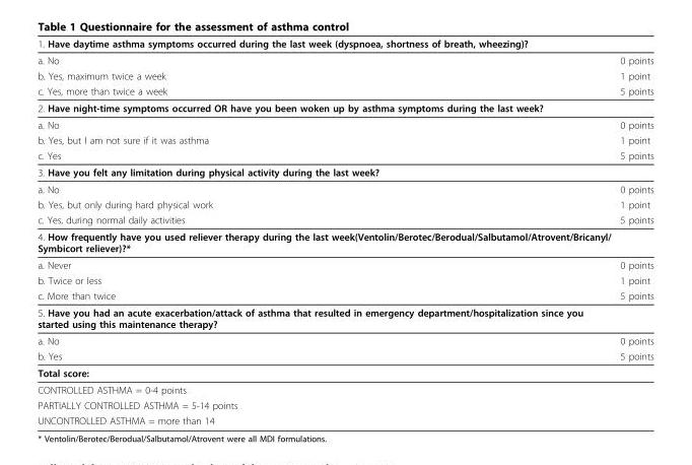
<table><thead><tr><td>1. Have daytime asthma symptoms occurred during the last week (dyspnoea, shortness of breath, wheezing)?</td><td></td></tr></thead><tbody><tr><td>a. No</td><td>0 points</td></tr><tr><td>b. Yes, maximum twice a week</td><td>1 point</td></tr><tr><td>c. Yes, more than twice a week</td><td>5 points</td></tr><tr><td colspan="2">2. Have night-time symptoms occurred OR have you been woken up by asthma symptoms during the last week?</td></tr><tr><td>a. No</td><td>0 points</td></tr><tr><td>b. Yes, but I am not sure if it was asthma</td><td>1 point</td></tr><tr><td>c. Yes</td><td>5 points</td></tr><tr><td colspan="2">3. Have you felt any limitation during physical activity during the last week?</td></tr><tr><td>a. No</td><td>0 points</td></tr><tr><td>b. Yes, but only during hard physical work</td><td>1 point</td></tr><tr><td>c. Yes, during normal daily activities</td><td>5 points</td></tr><tr><td colspan="2">4. How frequently have you used reliever therapy during the last week(Ventolin/Berotec/Berodual/Salbutamol/Atrovent/Bricanyl/ Symbicort reliever)?*</td></tr><tr><td>a. Never</td><td>0 points</td></tr><tr><td>b. Twice or less</td><td>1 point</td></tr><tr><td>c. More than twice</td><td>5 points</td></tr><tr><td colspan="2">5. Have you had an acute exacerbation/attack of asthma that resulted in emergency department/hospitalization since you started using this maintenance therapy?</td></tr><tr><td>a. No</td><td>0 points</td></tr><tr><td>b. Yes</td><td>5 points</td></tr><tr><td colspan="2">Total score:</td></tr><tr><td colspan="2">CONTROLLED ASTHMA = 0-4 points</td></tr><tr><td colspan="2">PARTIALLY CONTROLLED ASTHMA = 5-14 points</td></tr><tr><td>UNCONTROLLED ASTHMA = more than 14</td><td></td></tr></tbody></table>